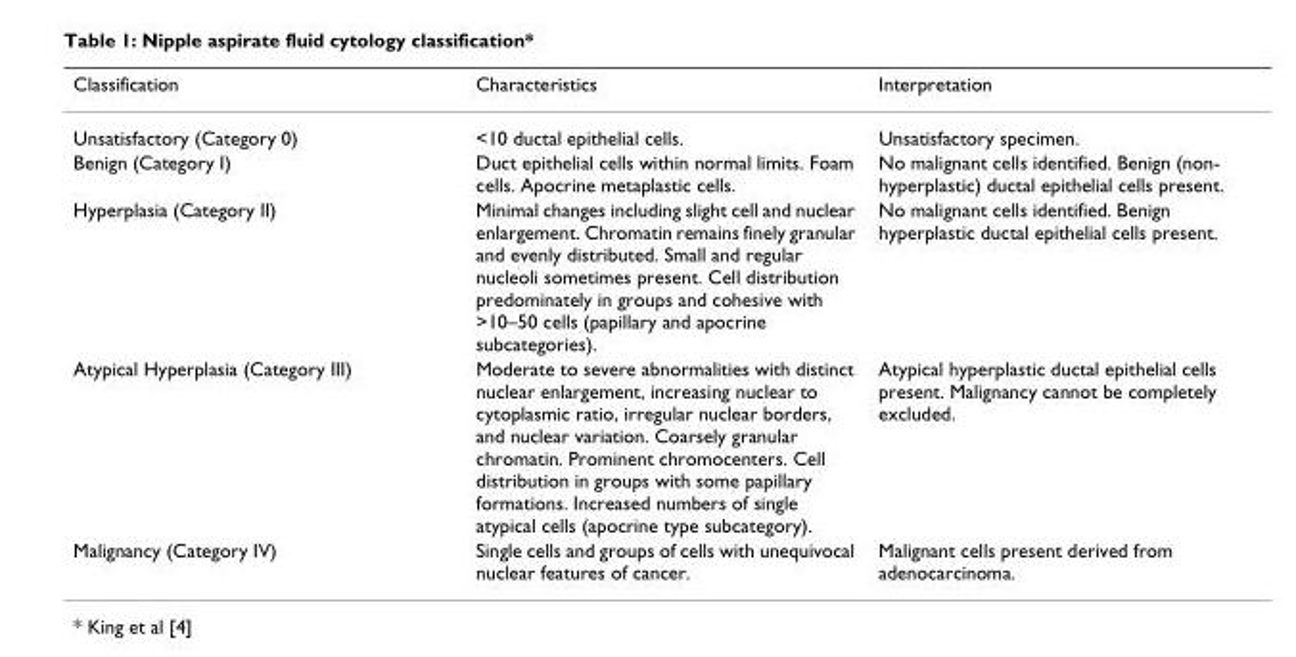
<table><thead><tr><td>Classification</td><td>Characteristics</td><td>Interpretation</td></tr></thead><tbody><tr><td>Unsatisfactory (Category 0)</td><td>&lt;10 ductal epithelial cells.</td><td>Unsatisfactory specimen.</td></tr><tr><td>Benign (Category I)</td><td>Duct epithelial cells within normal limits. Foam cells. Apocrine metaplastic cells.</td><td>No malignant cells identified. Benign (non- hyperplastic) ductal epithelial cells present.</td></tr><tr><td>Hyperplasia (Category II)</td><td>Minimal changes including slight cell and nuclear enlargement. Chromatin remains finely granular and evenly distributed. Small and regular nucleoli sometimes present. Cell distribution predominately in groups and cohesive with &gt;10–50 cells (papillary and apocrine subcategories).</td><td>No malignant cells identified. Benign hyperplastic ductal epithelial cells present.</td></tr><tr><td>Atypical Hyperplasia (Category III)</td><td>Moderate to severe abnormalities with distinct nuclear enlargement, increasing nuclear to cytoplasmic ratio, irregular nuclear borders, and nuclear variation. Coarsely granular chromatin. Prominent chromocenters. Cell distribution in groups with some papillary formations. Increased numbers of single atypical cells (apocrine type subcategory).</td><td>Atypical hyperplastic ductal epithelial cells present. Malignancy cannot be completely excluded.</td></tr><tr><td>Malignancy (Category IV)</td><td>Single cells and groups of cells with unequivocal nuclear features of cancer.</td><td>Malignant cells present derived from adenocarcinoma.</td></tr></tbody></table>